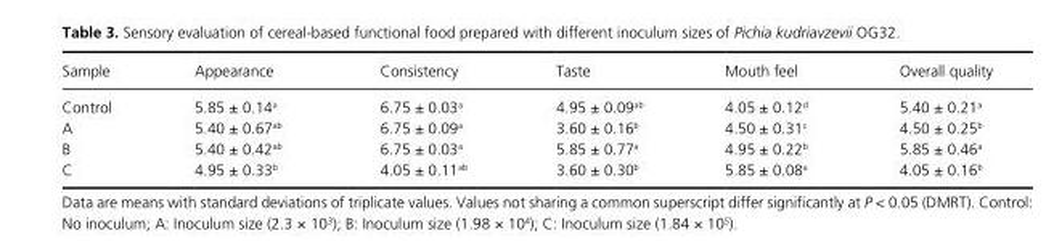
<table><thead><tr><td>Sample</td><td>Appearance</td><td>Consistency</td><td>Taste</td><td>Mouth feel</td><td>Overall quality</td></tr></thead><tbody><tr><td>Control</td><td>5.85 ± 0.14<sup>a</sup></td><td>6.75 ± 0.03<sup>a</sup></td><td>4.95 ± 0.09<sup>ab</sup></td><td>4.05 ± 0.12<sup>d</sup></td><td>5.40 ± 0.21<sup>a</sup></td></tr><tr><td>A</td><td>5.40 ± 0.67<sup>ab</sup></td><td>6.75 ± 0.09<sup>a</sup></td><td>3.60 ± 0.16<sup>b</sup></td><td>4.50 ± 0.31<sup>c</sup></td><td>4.50 ± 0.25<sup>b</sup></td></tr><tr><td>B</td><td>5.40 ± 0.42<sup>ab</sup></td><td>6.75 ± 0.03<sup>a</sup></td><td>5.85 ± 0.77<sup>a</sup></td><td>4.95 ± 0.22<sup>b</sup></td><td>5.85 ± 0.46<sup>a</sup></td></tr><tr><td>C</td><td>4.95 ± 0.33<sup>b</sup></td><td>4.05 ± 0.11<sup>ab</sup></td><td>3.60 ± 0.30<sup>b</sup></td><td>5.85 ± 0.08<sup>a</sup></td><td>4.05 ± 0.16<sup>b</sup></td></tr></tbody></table>